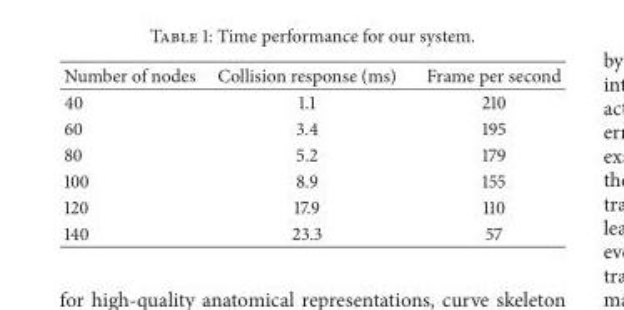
<table><thead><tr><td>Number of nodes</td><td>Collision response (ms)</td><td>Frame per second</td></tr></thead><tbody><tr><td>40</td><td>1.1</td><td>210</td></tr><tr><td>60</td><td>3.4</td><td>195</td></tr><tr><td>80</td><td>5.2</td><td>179</td></tr><tr><td>100</td><td>8.9</td><td>155</td></tr><tr><td>120</td><td>17.9</td><td>110</td></tr><tr><td>140</td><td>23.3</td><td>57</td></tr></tbody></table>